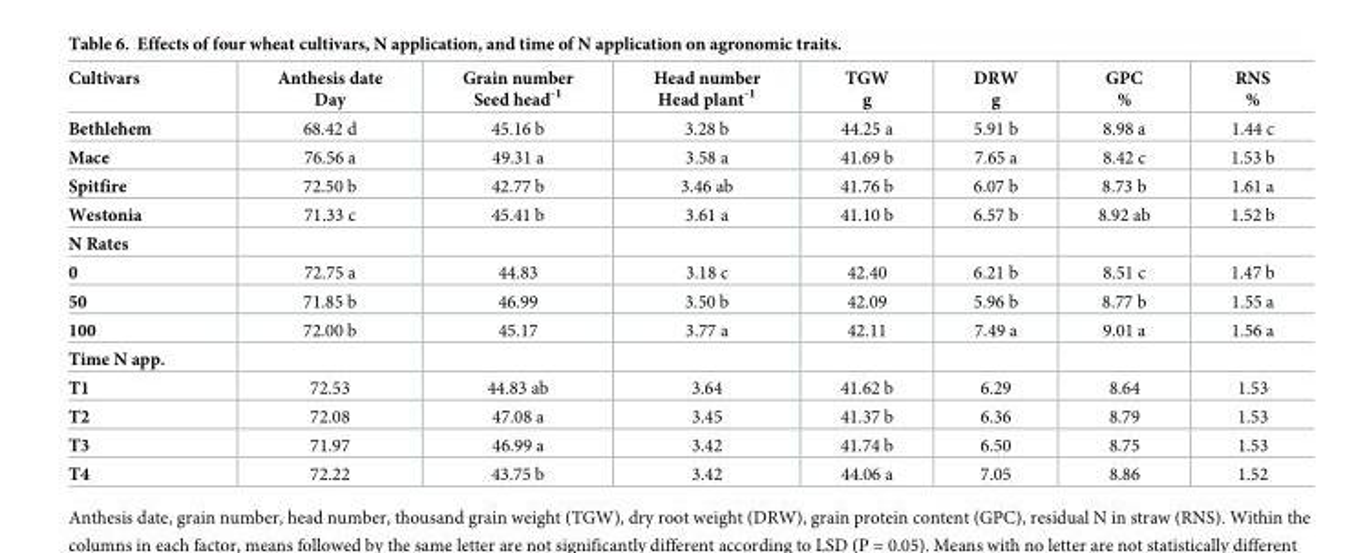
<table><thead><tr><td>Cultivars</td><td>Anthesis date Day</td><td>Grain number Seed head<sup>-1</sup></td><td>Head number Head plant<sup>-1</sup></td><td>TGW g</td><td>DRW g</td><td>GPC %</td><td>RNS %</td></tr></thead><tbody><tr><td>Bethlehem</td><td>68.42 d</td><td>45.16 b</td><td>3.28 b</td><td>44.25 a</td><td>5.91 b</td><td>8.98 a</td><td>1.44 c</td></tr><tr><td>Mace</td><td>76.56 a</td><td>49.31 a</td><td>3.58 a</td><td>41.69 b</td><td>7.65 a</td><td>8.42 c</td><td>1.53 b</td></tr><tr><td>Spitfire</td><td>72.50 b</td><td>42.77 b</td><td>3.46 ab</td><td>41.76 b</td><td>6.07 b</td><td>8.73 b</td><td>1.61 a</td></tr><tr><td>Westonia</td><td>71.33 c</td><td>45.41 b</td><td>3.61 a</td><td>41.10 b</td><td>6.57 b</td><td>8.92 ab</td><td>1.52 b</td></tr><tr><td colspan="8">N Rates</td></tr><tr><td>0</td><td>72.75 a</td><td>44.83</td><td>3.18 c</td><td>42.40</td><td>6.21 b</td><td>8.51 c</td><td>1.47 b</td></tr><tr><td>50</td><td>71.85 b</td><td>46.99</td><td>3.50 b</td><td>42.09</td><td>5.96 b</td><td>8.77 b</td><td>1.55 a</td></tr><tr><td>100</td><td>72.00 b</td><td>45.17</td><td>3.77 a</td><td>42.11</td><td>7.49 a</td><td>9.01 a</td><td>1.56 a</td></tr><tr><td colspan="8">Time N app.</td></tr><tr><td>T1</td><td>72.53</td><td>44.83 ab</td><td>3.64</td><td>41.62 b</td><td>6.29</td><td>8.64</td><td>1.53</td></tr><tr><td>T2</td><td>72.08</td><td>47.08 a</td><td>3.45</td><td>41.37 b</td><td>6.36</td><td>8.79</td><td>1.53</td></tr><tr><td>T3</td><td>71.97</td><td>46.99 a</td><td>3.42</td><td>41.74 b</td><td>6.50</td><td>8.75</td><td>1.53</td></tr><tr><td>T4</td><td>72.22</td><td>43.75 b</td><td>3.42</td><td>44.06 a</td><td>7.05</td><td>8.86</td><td>1.52</td></tr></tbody></table>